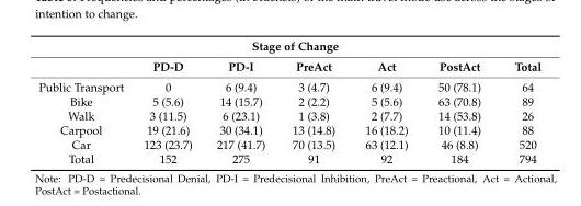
<table><thead><tr><td colspan="7">Stage of Change</td></tr><tr><td></td><td>PD-D</td><td>PD-I</td><td>PreAct</td><td>Act</td><td>PostAct</td><td>Total</td></tr></thead><tbody><tr><td>Public Transport</td><td>0</td><td>6 (9.4)</td><td>3 (4.7)</td><td>6 (9.4)</td><td>50 (78.1)</td><td>64</td></tr><tr><td>Bike</td><td>5 (5.6)</td><td>14 (15.7)</td><td>2 (2.2)</td><td>5 (5.6)</td><td>63 (70.8)</td><td>89</td></tr><tr><td>Walk</td><td>3 (11.5)</td><td>6 (23.1)</td><td>1 (3.8)</td><td>2 (7.7)</td><td>14 (53.8)</td><td>26</td></tr><tr><td>Carpool</td><td>19 (21.6)</td><td>30 (34.1)</td><td>13 (14.8)</td><td>16 (18.2)</td><td>10 (11.4)</td><td>88</td></tr><tr><td>Car</td><td>123 (23.7)</td><td>217 (41.7)</td><td>70 (13.5)</td><td>63 (12.1)</td><td>46 (8.8)</td><td>520</td></tr><tr><td>Total</td><td>152</td><td>275</td><td>91</td><td>92</td><td>184</td><td>794</td></tr></tbody></table>